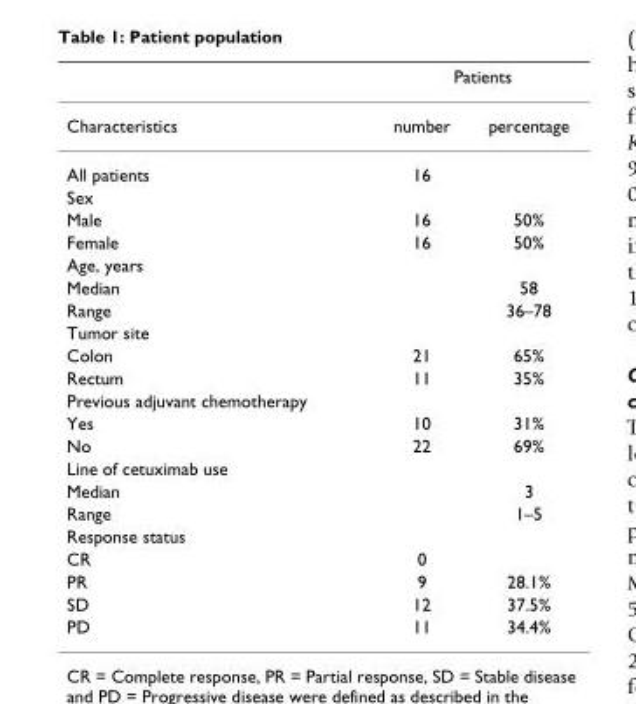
<table><thead><tr><td rowspan="2">Characteristics</td><td colspan="2">Patients</td></tr><tr><td>number</td><td>percentage</td></tr></thead><tbody><tr><td>All patients</td><td>16</td><td></td></tr><tr><td colspan="3">Sex</td></tr><tr><td>Male</td><td>16</td><td>50%</td></tr><tr><td>Female</td><td>16</td><td>50%</td></tr><tr><td colspan="3">Age, years</td></tr><tr><td>Median</td><td></td><td>58</td></tr><tr><td>Range</td><td></td><td>36–78</td></tr><tr><td colspan="3">Tumor site</td></tr><tr><td>Colon</td><td>21</td><td>65%</td></tr><tr><td>Rectum</td><td>11</td><td>35%</td></tr><tr><td colspan="3">Previous adjuvant chemotherapy</td></tr><tr><td>Yes</td><td>10</td><td>31%</td></tr><tr><td>No</td><td>22</td><td>69%</td></tr><tr><td colspan="3">Line of cetuximab use</td></tr><tr><td>Median</td><td></td><td>3</td></tr><tr><td>Range</td><td></td><td>1–5</td></tr><tr><td colspan="3">Response status</td></tr><tr><td>CR</td><td>0</td><td></td></tr><tr><td>PR</td><td>9</td><td>28.1%</td></tr><tr><td>SD</td><td>12</td><td>37.5%</td></tr><tr><td>PD</td><td>11</td><td>34.4%</td></tr></tbody></table>